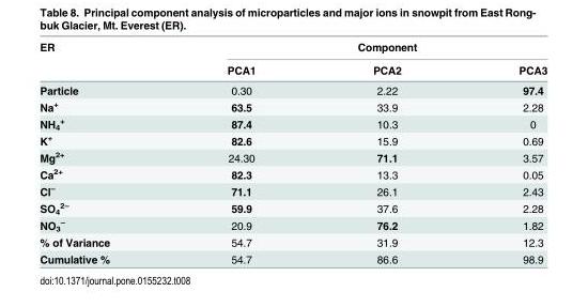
<table><thead><tr><td rowspan="2">ER</td><td colspan="3">Component</td></tr><tr><td>PCA1</td><td>PCA2</td><td>PCA3</td></tr></thead><tbody><tr><td>Particle</td><td>0.30</td><td>2.22</td><td>97.4</td></tr><tr><td>Na<sup>+</sup></td><td>63.5</td><td>33.9</td><td>2.28</td></tr><tr><td>NH<sub>4</sub> <sup>+</sup></td><td>87.4</td><td>10.3</td><td>0</td></tr><tr><td>K<sup>+</sup></td><td>82.6</td><td>15.9</td><td>0.69</td></tr><tr><td>Mg<sup>2+</sup></td><td>24.30</td><td>71.1</td><td>3.57</td></tr><tr><td>Ca<sup>2+</sup></td><td>82.3</td><td>13.3</td><td>0.05</td></tr><tr><td>Cl<sup>–</sup></td><td>71.1</td><td>26.1</td><td>2.43</td></tr><tr><td>SO<sub>4</sub> <sup>2–</sup></td><td>59.9</td><td>37.6</td><td>2.28</td></tr><tr><td>NO<sub>3</sub> <sup>–</sup></td><td>20.9</td><td>76.2</td><td>1.82</td></tr><tr><td>% of Variance</td><td>54.7</td><td>31.9</td><td>12.3</td></tr><tr><td>Cumulative %</td><td>54.7</td><td>86.6</td><td>98.9</td></tr></tbody></table>